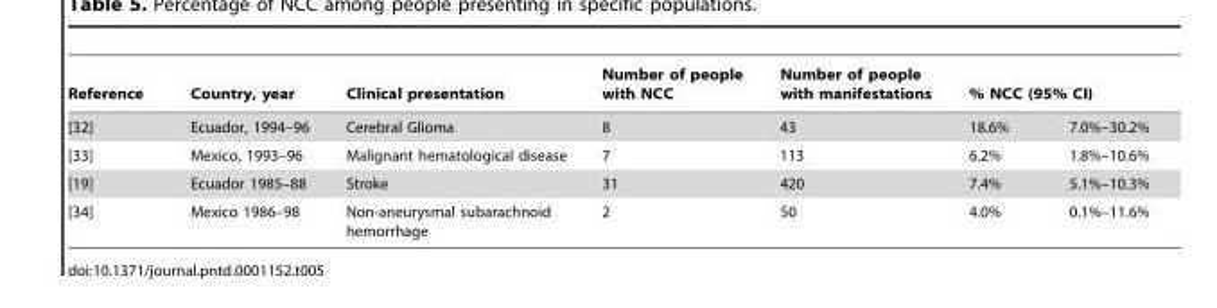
<table><thead><tr><td rowspan="2">Reference [32]</td><td rowspan="2">Country, year Ecuador, 1994–96</td><td rowspan="2">Clinical presentation Cerebral Glioma</td><td rowspan="2">Number of people with NCC 8</td><td rowspan="2">Number of people with manifestations 43</td><td colspan="2">% NCC (95% CI)</td></tr><tr><td>18.6%</td><td>7.0%–30.2%</td></tr></thead><tbody><tr><td>[33]</td><td>Mexico, 1993–96</td><td>Malignant hematological disease</td><td>7</td><td>113</td><td>6.2%</td><td>1.8%–10.6%</td></tr><tr><td>[19]</td><td>Ecuador 1985–88</td><td>Stroke</td><td>31</td><td>420</td><td>7.4%</td><td>5.1%–10.3%</td></tr><tr><td>[34]</td><td>Mexico 1986–98</td><td>Non-aneurysmal subarachnoid hemorrhage</td><td>2</td><td>50</td><td>4.0%</td><td>0.1%–11.6%</td></tr></tbody></table>